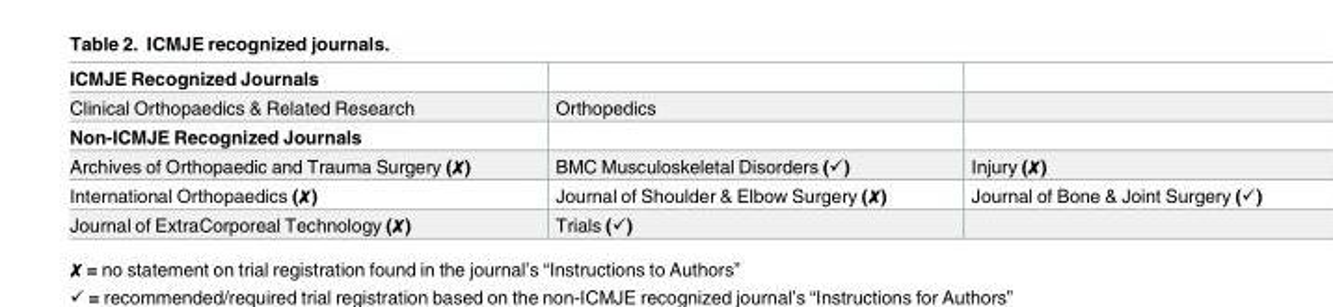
<table><tbody><tr><td colspan="3">ICMJE Recognized Journals</td></tr><tr><td>Clinical Orthopaedics &amp; Related Research</td><td>Orthopedics</td><td></td></tr><tr><td colspan="3">Non-ICMJE Recognized Journals</td></tr><tr><td>Archives of Orthopaedic and Trauma Surgery (✘)</td><td>BMC Musculoskeletal Disorders (✓)</td><td>Injury (✘)</td></tr><tr><td>International Orthopaedics (✘)</td><td>Journal of Shoulder &amp; Elbow Surgery (✘)</td><td>Journal of Bone &amp; Joint Surgery (✓)</td></tr><tr><td>Journal of ExtraCorporeal Technology (✘)</td><td>Trials (✓)</td><td></td></tr></tbody></table>